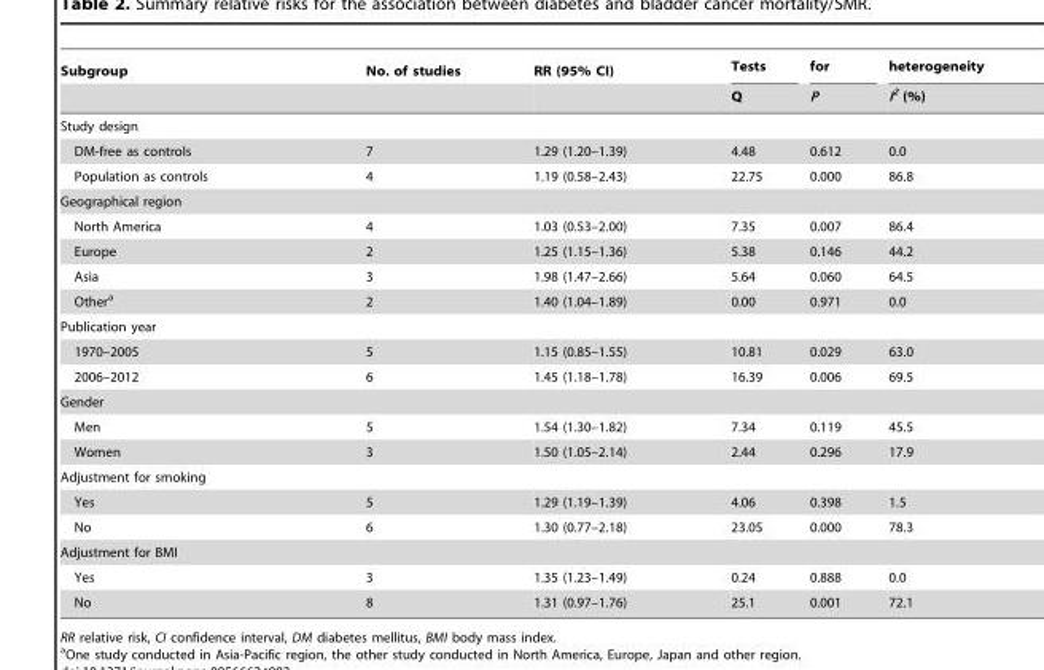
<table><thead><tr><td rowspan="2">Subgroup</td><td rowspan="2">No. of studies</td><td rowspan="2">RR (95% CI)</td><td rowspan="2">Tests Q</td><td rowspan="2">for P</td><td rowspan="2">heterogeneity I<sup>2</sup> (%)</td></tr><tr></tr></thead><tbody><tr><td colspan="6">Study design</td></tr><tr><td>DM-free as controls</td><td>7</td><td>1.29 (1.20–1.39)</td><td>4.48</td><td>0.612</td><td>0.0</td></tr><tr><td>Population as controls</td><td>4</td><td>1.19 (0.58–2.43)</td><td>22.75</td><td>0.000</td><td>86.8</td></tr><tr><td colspan="6">Geographical region</td></tr><tr><td>North America</td><td>4</td><td>1.03 (0.53–2.00)</td><td>7.35</td><td>0.007</td><td>86.4</td></tr><tr><td>Europe</td><td>2</td><td>1.25 (1.15–1.36)</td><td>5.38</td><td>0.146</td><td>44.2</td></tr><tr><td>Asia</td><td>3</td><td>1.98 (1.47–2.66)</td><td>5.64</td><td>0.060</td><td>64.5</td></tr><tr><td>Other<sup>a</sup></td><td>2</td><td>1.40 (1.04–1.89)</td><td>0.00</td><td>0.971</td><td>0.0</td></tr><tr><td colspan="6">Publication year</td></tr><tr><td>1970–2005</td><td>5</td><td>1.15 (0.85–1.55)</td><td>10.81</td><td>0.029</td><td>63.0</td></tr><tr><td>2006–2012</td><td>6</td><td>1.45 (1.18–1.78)</td><td>16.39</td><td>0.006</td><td>69.5</td></tr><tr><td colspan="6">Gender</td></tr><tr><td>Men</td><td>5</td><td>1.54 (1.30–1.82)</td><td>7.34</td><td>0.119</td><td>45.5</td></tr><tr><td>Women</td><td>3</td><td>1.50 (1.05–2.14)</td><td>2.44</td><td>0.296</td><td>17.9</td></tr><tr><td colspan="6">Adjustment for smoking</td></tr><tr><td>Yes</td><td>5</td><td>1.29 (1.19–1.39)</td><td>4.06</td><td>0.398</td><td>1.5</td></tr><tr><td>No</td><td>6</td><td>1.30 (0.77–2.18)</td><td>23.05</td><td>0.000</td><td>78.3</td></tr><tr><td colspan="6">Adjustment for BMI</td></tr><tr><td>Yes</td><td>3</td><td>1.35 (1.23–1.49)</td><td>0.24</td><td>0.888</td><td>0.0</td></tr><tr><td>No</td><td>8</td><td>1.31 (0.97–1.76)</td><td>25.1</td><td>0.001</td><td>72.1</td></tr></tbody></table>